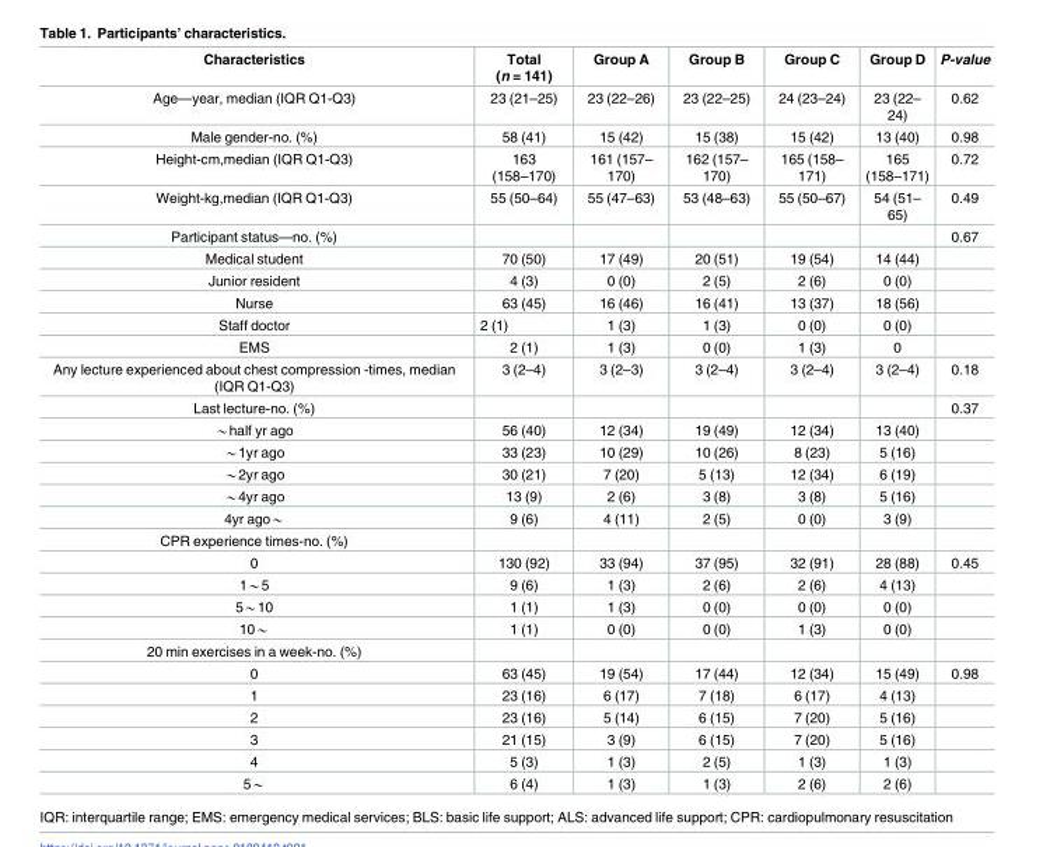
<table><thead><tr><td>Characteristics</td><td>Total (n = 141)</td><td>Group A</td><td>Group B</td><td>Group C</td><td>Group D</td><td>P-value</td></tr></thead><tbody><tr><td>Age—year, median (IQR Q1-Q3)</td><td>23 (21–25)</td><td>23 (22–26)</td><td>23 (22–25)</td><td>24 (23–24)</td><td>23 (22– 24)</td><td>0.62</td></tr><tr><td>Male gender-no. (%)</td><td>58 (41)</td><td>15 (42)</td><td>15 (38)</td><td>15 (42)</td><td>13 (40)</td><td>0.98</td></tr><tr><td>Height-cm,median (IQR Q1-Q3)</td><td>163 (158–170)</td><td>161 (157– 170)</td><td>162 (157– 170)</td><td>165 (158– 171)</td><td>165 (158–171)</td><td>0.72</td></tr><tr><td>Weight-kg,median (IQR Q1-Q3)</td><td>55 (50–64)</td><td>55 (47–63)</td><td>53 (48–63)</td><td>55 (50–67)</td><td>54 (51– 65)</td><td>0.49</td></tr><tr><td>Participant status—no. (%)</td><td></td><td></td><td></td><td></td><td></td><td>0.67</td></tr><tr><td>Medical student</td><td>70 (50)</td><td>17 (49)</td><td>20 (51)</td><td>19 (54)</td><td>14 (44)</td><td></td></tr><tr><td>Junior resident</td><td>4 (3)</td><td>0 (0)</td><td>2 (5)</td><td>2 (6)</td><td>0 (0)</td><td></td></tr><tr><td>Nurse</td><td>63 (45)</td><td>16 (46)</td><td>16 (41)</td><td>13 (37)</td><td>18 (56)</td><td></td></tr><tr><td>Staff doctor</td><td>2 (1)</td><td>1 (3)</td><td>1 (3)</td><td>0 (0)</td><td>0 (0)</td><td></td></tr><tr><td>EMS</td><td>2 (1)</td><td>1 (3)</td><td>0 (0)</td><td>1 (3)</td><td>0</td><td></td></tr><tr><td>Any lecture experienced about chest compression -times, median (IQR Q1-Q3)</td><td>3 (2–4)</td><td>3 (2–3)</td><td>3 (2–4)</td><td>3 (2–4)</td><td>3 (2–4)</td><td>0.18</td></tr><tr><td>Last lecture-no. (%)</td><td></td><td></td><td></td><td></td><td></td><td>0.37</td></tr><tr><td>*half yr ago</td><td>56 (40)</td><td>12 (34)</td><td>19 (49)</td><td>12 (34)</td><td>13 (40)</td><td></td></tr><tr><td>*1yr ago</td><td>33 (23)</td><td>10 (29)</td><td>10 (26)</td><td>8 (23)</td><td>5 (16)</td><td></td></tr><tr><td>*2yr ago</td><td>30 (21)</td><td>7 (20)</td><td>5 (13)</td><td>12 (34)</td><td>6 (19)</td><td></td></tr><tr><td>*4yr ago</td><td>13 (9)</td><td>2 (6)</td><td>3 (8)</td><td>3 (8)</td><td>5 (16)</td><td></td></tr><tr><td>4yr ago*</td><td>9 (6)</td><td>4 (11)</td><td>2 (5)</td><td>0 (0)</td><td>3 (9)</td><td></td></tr><tr><td colspan="7">CPR experience times-no. (%)</td></tr><tr><td>0</td><td>130 (92)</td><td>33 (94)</td><td>37 (95)</td><td>32 (91)</td><td>28 (88)</td><td>0.45</td></tr><tr><td>1*5</td><td>9 (6)</td><td>1 (3)</td><td>2 (6)</td><td>2 (6)</td><td>4 (13)</td><td></td></tr><tr><td>5*10</td><td>1 (1)</td><td>1 (3)</td><td>0 (0)</td><td>0 (0)</td><td>0 (0)</td><td></td></tr><tr><td>10*</td><td>1 (1)</td><td>0 (0)</td><td>0 (0)</td><td>1 (3)</td><td>0 (0)</td><td></td></tr><tr><td colspan="7">20 min exercises in a week-no. (%)</td></tr><tr><td>0</td><td>63 (45)</td><td>19 (54)</td><td>17 (44)</td><td>12 (34)</td><td>15 (49)</td><td>0.98</td></tr><tr><td>1</td><td>23 (16)</td><td>6 (17)</td><td>7 (18)</td><td>6 (17)</td><td>4 (13)</td><td></td></tr><tr><td>2</td><td>23 (16)</td><td>5 (14)</td><td>6 (15)</td><td>7 (20)</td><td>5 (16)</td><td></td></tr><tr><td>3</td><td>21 (15)</td><td>3 (9)</td><td>6 (15)</td><td>7 (20)</td><td>5 (16)</td><td></td></tr><tr><td>4</td><td>5 (3)</td><td>1 (3)</td><td>2 (5)</td><td>1 (3)</td><td>1 (3)</td><td></td></tr><tr><td>5*</td><td>6 (4)</td><td>1 (3)</td><td>1 (3)</td><td>2 (6)</td><td>2 (6)</td><td></td></tr></tbody></table>